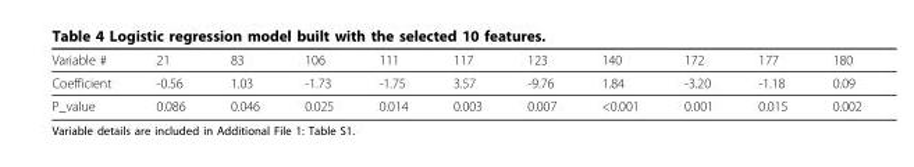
<table><thead><tr><td>Variable #</td><td>21</td><td>83</td><td>106</td><td>111</td><td>117</td><td>123</td><td>140</td><td>172</td><td>177</td><td>180</td></tr></thead><tbody><tr><td>Coefficient</td><td>-0.56</td><td>1.03</td><td>-1.73</td><td>-1.75</td><td>3.57</td><td>-9.76</td><td>1.84</td><td>-3.20</td><td>-1.18</td><td>0.09</td></tr><tr><td>P_value</td><td>0.086</td><td>0.046</td><td>0.025</td><td>0.014</td><td>0.003</td><td>0.007</td><td>&lt;0.001</td><td>0.001</td><td>0.015</td><td>0.002</td></tr></tbody></table>